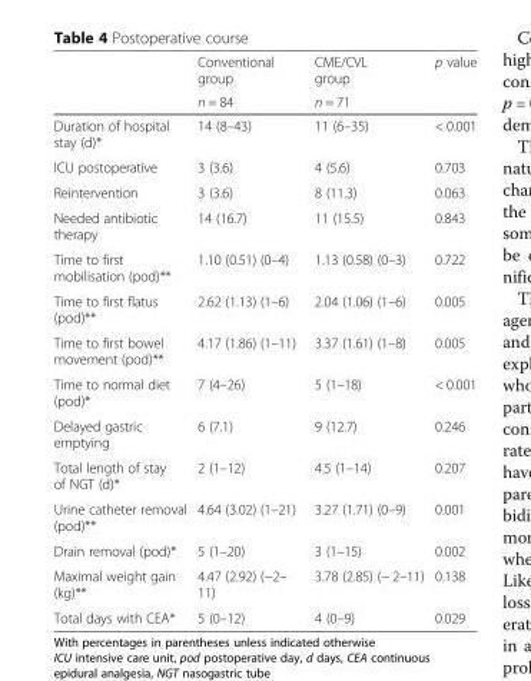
<table><thead><tr><td rowspan="2"></td><td rowspan="2">Conventional group n = 84</td><td rowspan="2">CME/CVL group n = 71</td><td rowspan="2">p value</td></tr><tr></tr></thead><tbody><tr><td>Duration of hospital stay (d)*</td><td>14 (8–43)</td><td>11 (6–35)</td><td>&lt; 0.001</td></tr><tr><td>ICU postoperative</td><td>3 (3.6)</td><td>4 (5.6)</td><td>0.703</td></tr><tr><td>Reintervention</td><td>3 (3.6)</td><td>8 (11.3)</td><td>0.063</td></tr><tr><td>Needed antibiotic therapy</td><td>14 (16.7)</td><td>11 (15.5)</td><td>0.843</td></tr><tr><td>Time to first mobilisation (pod)**</td><td>1.10 (0.51) (0–4)</td><td>1.13 (0.58) (0–3)</td><td>0.722</td></tr><tr><td>Time to first flatus (pod)**</td><td>2.62 (1.13) (1–6)</td><td>2.04 (1.06) (1–6)</td><td>0.005</td></tr><tr><td>Time to first bowel movement (pod)**</td><td>4.17 (1.86) (1–11)</td><td>3.37 (1.61) (1–8)</td><td>0.005</td></tr><tr><td>Time to normal diet (pod)*</td><td>7 (4–26)</td><td>5 (1–18)</td><td>&lt; 0.001</td></tr><tr><td>Delayed gastric emptying</td><td>6 (7.1)</td><td>9 (12.7)</td><td>0.246</td></tr><tr><td>Total length of stay of NGT (d)*</td><td>2 (1–12)</td><td>4.5 (1–14)</td><td>0.207</td></tr><tr><td>Urine catheter removal (pod)**</td><td>4.64 (3.02) (1–21)</td><td>3.27 (1.71) (0–9)</td><td>0.001</td></tr><tr><td>Drain removal (pod)*</td><td>5 (1–20)</td><td>3 (1–15)</td><td>0.002</td></tr><tr><td>Maximal weight gain (kg)**</td><td>4.47 (2.92) (−2– 11)</td><td>3.78 (2.85) (− 2–11)</td><td>0.138</td></tr><tr><td>Total days with CEA*</td><td>5 (0–12)</td><td>4 (0–9)</td><td>0.029</td></tr></tbody></table>